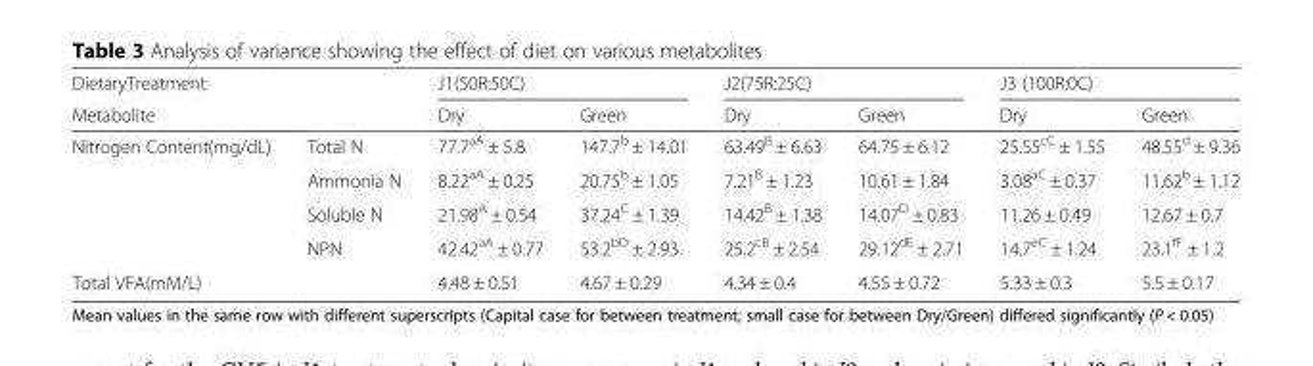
<table><thead><tr><td rowspan="2">DietaryTreatment Metabolite</td><td rowspan="2"></td><td colspan="2">J1(50R:50C)</td><td colspan="2">J2(75R:25C)</td><td colspan="2">J3 (100R:0C)</td></tr><tr><td>Dry</td><td>Green</td><td>Dry</td><td>Green</td><td>Dry</td><td>Green</td></tr></thead><tbody><tr><td rowspan="4">Nitrogen Content(mg/dL)</td><td>Total N</td><td>77.7<sup>aA</sup> ± 5.8</td><td>147.7<sup>b</sup> ± 14.01</td><td>63.49<sup>B</sup> ± 6.63</td><td>64.75 ± 6.12</td><td>25.55<sup>cC</sup> ± 1.55</td><td>48.55<sup>d</sup> ± 9.36</td></tr><tr><td>Ammonia N</td><td>8.22<sup>aA</sup> ± 0.25</td><td>20.75<sup>b</sup> ± 1.05</td><td>7.21<sup>B</sup> ± 1.23</td><td>10.61 ± 1.84</td><td>3.08<sup>aC</sup> ± 0.37</td><td>11.62<sup>b</sup> ± 1.12</td></tr><tr><td>Soluble N</td><td>21.98<sup>A</sup> ± 0.54</td><td>37.24<sup>C</sup> ± 1.39</td><td>14.42<sup>B</sup> ± 1.38</td><td>14.07<sup>D</sup> ± 0.83</td><td>11.26 ± 0.49</td><td>12.67 ± 0.7</td></tr><tr><td>NPN</td><td>42.42<sup>aA</sup> ± 0.77</td><td>53.2<sup>bD</sup> ± 2.93</td><td>25.2<sup>cB</sup> ± 2.54</td><td>29.12<sup>dE</sup> ± 2.71</td><td>14.7<sup>eC</sup> ± 1.24</td><td>23.1<sup>fF</sup> ± 1.2</td></tr><tr><td colspan="2">Total VFA(mM/L)</td><td>4.48 ± 0.51</td><td>4.67 ± 0.29</td><td>4.34 ± 0.4</td><td>4.55 ± 0.72</td><td>5.33 ± 0.3</td><td>5.5 ± 0.17</td></tr></tbody></table>